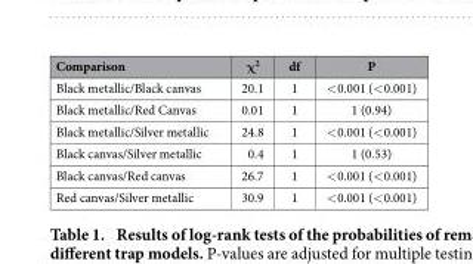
<table><thead><tr><td>Comparison</td><td>χ<sup>2</sup></td><td>df</td><td>P</td></tr></thead><tbody><tr><td>Black metallic/Black canvas</td><td>20.1</td><td>1</td><td>&lt; 0.001 (&lt; 0.001)</td></tr><tr><td>Black metallic/Red Canvas</td><td>0.01</td><td>1</td><td>1 (0.94)</td></tr><tr><td>Black metallic/Silver metallic</td><td>24.8</td><td>1</td><td>&lt; 0.001 (&lt; 0.001)</td></tr><tr><td>Black canvas/Silver metallic</td><td>0.4</td><td>1</td><td>1 (0.53)</td></tr><tr><td>Black canvas/Red canvas</td><td>26.7</td><td>1</td><td>&lt; 0.001 (&lt; 0.001)</td></tr><tr><td>Red canvas/Silver metallic</td><td>30.9</td><td>1</td><td>&lt; 0.001 (&lt; 0.001)</td></tr></tbody></table>